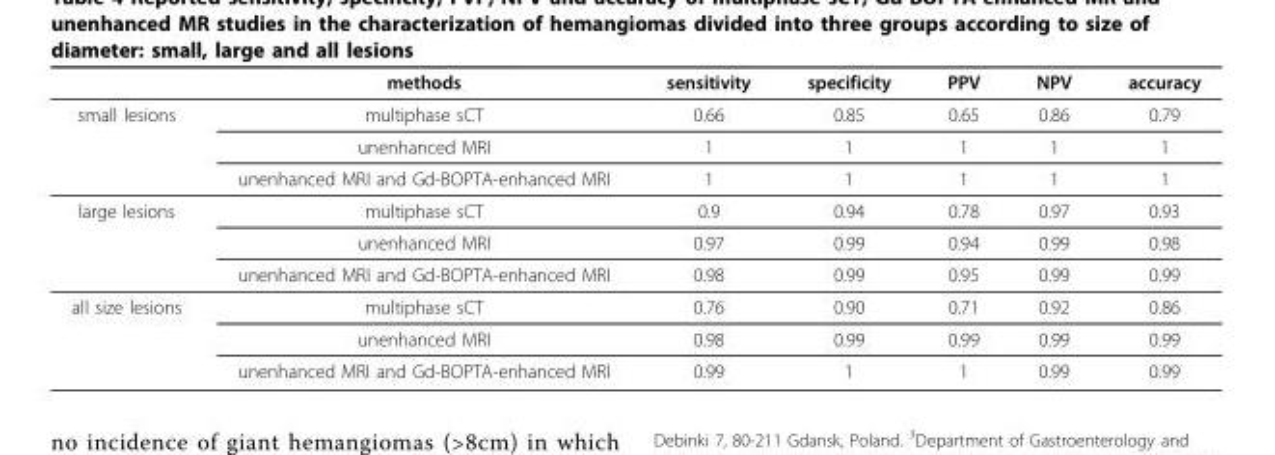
<table><thead><tr><td></td><td>methods</td><td>sensitivity</td><td>specificity</td><td>PPV</td><td>NPV</td><td>accuracy</td></tr></thead><tbody><tr><td rowspan="3">small lesions</td><td>multiphase sCT</td><td>0.66</td><td>0.85</td><td>0.65</td><td>0.86</td><td>0.79</td></tr><tr><td>unenhanced MRI</td><td>1</td><td>1</td><td>1</td><td>1</td><td>1</td></tr><tr><td>unenhanced MRI and Gd-BOPTA-enhanced MRI</td><td>1</td><td>1</td><td>1</td><td>1</td><td>1</td></tr><tr><td rowspan="3">large lesions</td><td>multiphase sCT</td><td>0.9</td><td>0.94</td><td>0.78</td><td>0.97</td><td>0.93</td></tr><tr><td>unenhanced MRI</td><td>0.97</td><td>0.99</td><td>0.94</td><td>0.99</td><td>0.98</td></tr><tr><td>unenhanced MRI and Gd-BOPTA-enhanced MRI</td><td>0.98</td><td>0.99</td><td>0.95</td><td>0.99</td><td>0.99</td></tr><tr><td rowspan="3">all size lesions</td><td>multiphase sCT</td><td>0.76</td><td>0.90</td><td>0.71</td><td>0.92</td><td>0.86</td></tr><tr><td>unenhanced MRI</td><td>0.98</td><td>0.99</td><td>0.99</td><td>0.99</td><td>0.99</td></tr><tr><td>unenhanced MRI and Gd-BOPTA-enhanced MRI</td><td>0.99</td><td>1</td><td>1</td><td>0.99</td><td>0.99</td></tr></tbody></table>